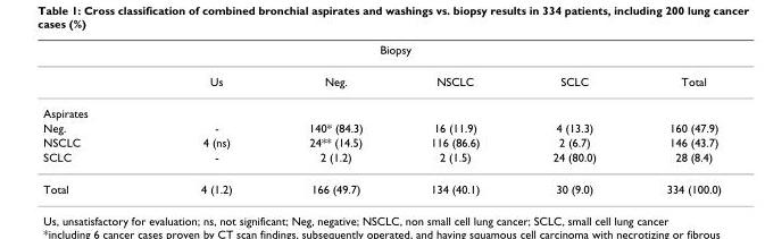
<table><thead><tr><td colspan="6">Biopsy</td></tr><tr><td></td><td>Us</td><td>Neg.</td><td>NSCLC</td><td>SCLC</td><td>Total</td></tr></thead><tbody><tr><td colspan="6">Aspirates</td></tr><tr><td>Neg.</td><td>-</td><td>140* (84.3)</td><td>16 (11.9)</td><td>4 (13.3)</td><td>160 (47.9)</td></tr><tr><td>NSCLC</td><td>4 (ns)</td><td>24** (14.5)</td><td>116 (86.6)</td><td>2 (6.7)</td><td>146 (43.7)</td></tr><tr><td>SCLC</td><td>-</td><td>2 (1.2)</td><td>2 (1.5)</td><td>24 (80.0)</td><td>28 (8.4)</td></tr><tr><td>Total</td><td>4 (1.2)</td><td>166 (49.7)</td><td>134 (40.1)</td><td>30 (9.0)</td><td>334 (100.0)</td></tr></tbody></table>